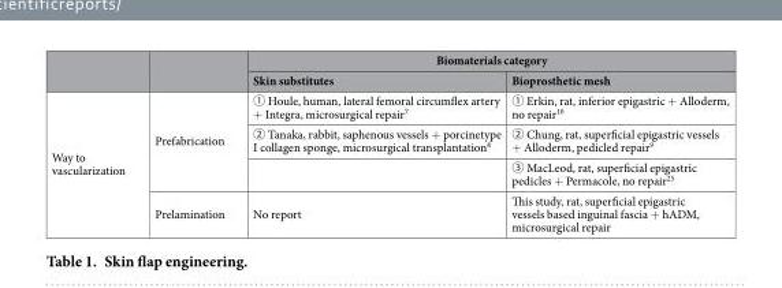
<table><thead><tr><td rowspan="2"></td><td rowspan="2"></td><td colspan="2">Biomaterials category</td></tr><tr><td>Skin substitutes</td><td>Bioprosthetic mesh</td></tr></thead><tbody><tr><td rowspan="4">Way to vascularization</td><td rowspan="3">Prefabrication</td><td>① Houle, human, lateral femoral circumflex artery + Integra, microsurgical repair<sup>7</sup></td><td>① Erkin, rat, inferior epigastric + Alloderm, no repair<sup>10</sup></td></tr><tr><td>② Tanaka, rabbit, saphenous vessels + porcinetype I collagen sponge, microsurgical transplantation<sup>8</sup></td><td>② Chung, rat, superficial epigastric vessels + Alloderm, pedicled repair<sup>9</sup></td></tr><tr><td></td><td>③ MacLeod, rat, superficial epigastric pedicles + Permacole, no repair<sup>25</sup></td></tr><tr><td>Prelamination</td><td>No report</td><td>This study, rat, superficial epigastric vessels based inguinal fascia + hADM, microsurgical repair</td></tr></tbody></table>